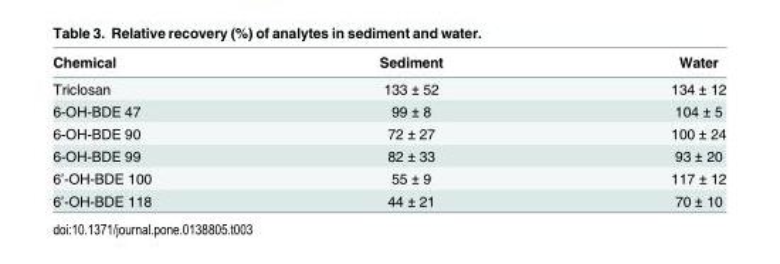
<table><thead><tr><td>Chemical</td><td>Sediment</td><td>Water</td></tr></thead><tbody><tr><td>Triclosan</td><td>133 ± 52</td><td>134 ± 12</td></tr><tr><td>6-OH-BDE 47</td><td>99 ± 8</td><td>104 ± 5</td></tr><tr><td>6-OH-BDE 90</td><td>72 ± 27</td><td>100 ± 24</td></tr><tr><td>6-OH-BDE 99</td><td>82 ± 33</td><td>93 ± 20</td></tr><tr><td>6’-OH-BDE 100</td><td>55 ± 9</td><td>117 ± 12</td></tr><tr><td>6’-OH-BDE 118</td><td>44 ± 21</td><td>70 ± 10</td></tr></tbody></table>